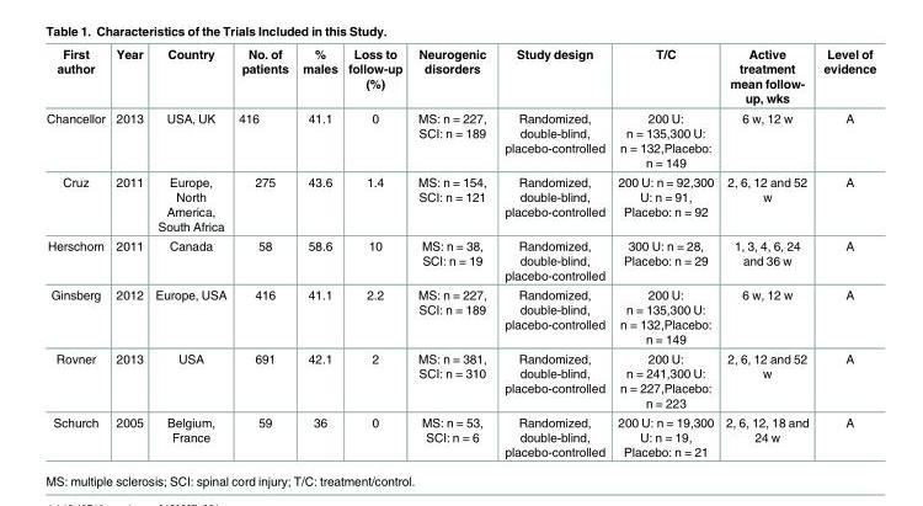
<table><thead><tr><td>First author</td><td>Year</td><td>Country</td><td>No. of patients</td><td>% males</td><td>Loss to follow-up (%)</td><td>Neurogenic disorders</td><td>Study design</td><td>T/C</td><td>Active treatment mean follow- up, wks</td><td>Level of evidence</td></tr></thead><tbody><tr><td>Chancellor</td><td>2013</td><td>USA, UK</td><td>416</td><td>41.1</td><td>0</td><td>MS: n = 227, SCI: n = 189</td><td>Randomized, double-blind, placebo-controlled</td><td>200 U: n = 135,300 U: n = 132,Placebo: n = 149</td><td>6 w, 12 w</td><td>A</td></tr><tr><td>Cruz</td><td>2011</td><td>Europe, North America, South Africa</td><td>275</td><td>43.6</td><td>1.4</td><td>MS: n = 154, SCI: n = 121</td><td>Randomized, double-blind, placebo-controlled</td><td>200 U: n = 92,300 U: n = 91, Placebo: n = 92</td><td>2, 6, 12 and 52 w</td><td>A</td></tr><tr><td>Herschorn</td><td>2011</td><td>Canada</td><td>58</td><td>58.6</td><td>10</td><td>MS: n = 38, SCI: n = 19</td><td>Randomized, double-blind, placebo-controlled</td><td>300 U: n = 28, Placebo: n = 29</td><td>1, 3, 4, 6, 24 and 36 w</td><td>A</td></tr><tr><td>Ginsberg</td><td>2012</td><td>Europe, USA</td><td>416</td><td>41.1</td><td>2.2</td><td>MS: n = 227, SCI: n = 189</td><td>Randomized, double-blind, placebo-controlled</td><td>200 U: n = 135,300 U: n = 132,Placebo: n = 149</td><td>6 w, 12 w</td><td>A</td></tr><tr><td>Rovner</td><td>2013</td><td>USA</td><td>691</td><td>42.1</td><td>2</td><td>MS: n = 381, SCI: n = 310</td><td>Randomized, double-blind, placebo-controlled</td><td>200 U: n = 241,300 U: n = 227,Placebo: n = 223</td><td>2, 6, 12 and 52 w</td><td>A</td></tr><tr><td>Schurch</td><td>2005</td><td>Belgium, France</td><td>59</td><td>36</td><td>0</td><td>MS: n = 53, SCI: n = 6</td><td>Randomized, double-blind, placebo-controlled</td><td>200 U: n = 19,300 U: n = 19, Placebo: n = 21</td><td>2, 6, 12, 18 and 24 w</td><td>A</td></tr></tbody></table>